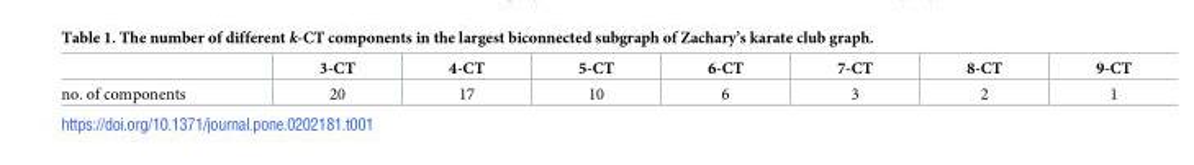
<table><thead><tr><td></td><td>3-CT</td><td>4-CT</td><td>5-CT</td><td>6-CT</td><td>7-CT</td><td>8-CT</td><td>9-CT</td></tr></thead><tbody><tr><td>no. of components</td><td>20</td><td>17</td><td>10</td><td>6</td><td>3</td><td>2</td><td>1</td></tr></tbody></table>